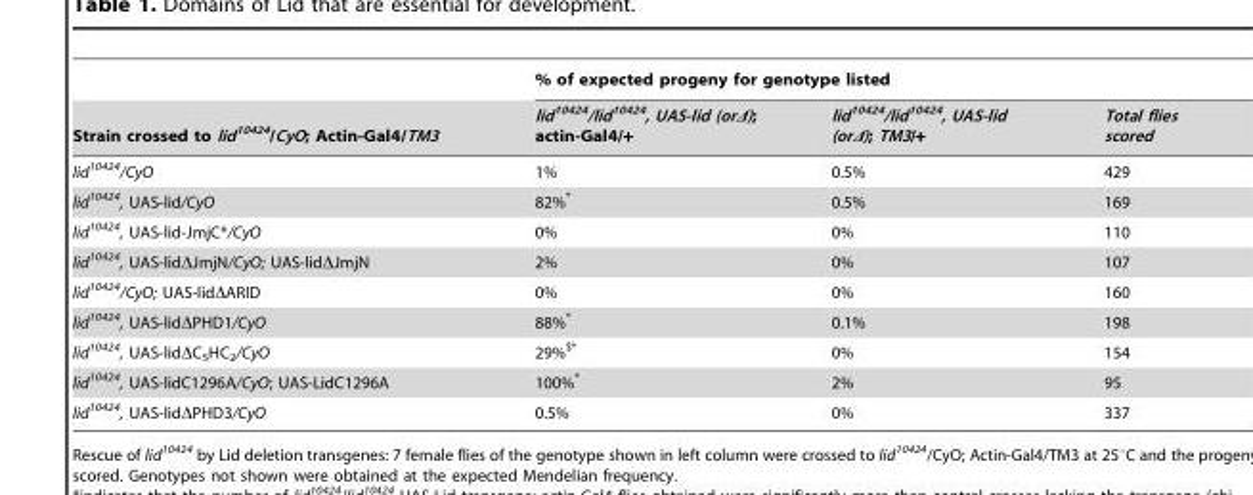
<table><thead><tr><td rowspan="2">Strain crossed to lid<sup>10424</sup>/CyO; Actin-Gal4/TM3</td><td colspan="3">% of expected progeny for genotype listed</td></tr><tr><td>lid<sup>10424</sup>/lid<sup>10424</sup>, UAS-lid (orΔ); actin-Gal4/+</td><td>lid<sup>10424</sup>/lid<sup>10424</sup>, UAS-lid (orΔ); TM3/+</td><td>Total flies scored</td></tr></thead><tbody><tr><td>lid<sup>10424</sup>/CyO</td><td>1%</td><td>0.5%</td><td>429</td></tr><tr><td>lid<sup>10424</sup>, UAS-lid/CyO</td><td>82%*</td><td>0.5%</td><td>169</td></tr><tr><td>lid<sup>10424</sup>, UAS-lid-JmjC*/CyO</td><td>0%</td><td>0%</td><td>110</td></tr><tr><td>lid<sup>10424</sup>, UAS-lidΔJmjN/CyO; UAS-lidΔJmjN</td><td>2%</td><td>0%</td><td>107</td></tr><tr><td>lid<sup>10424</sup>/CyO; UAS-lidΔARID</td><td>0%</td><td>0%</td><td>160</td></tr><tr><td>lid<sup>10424</sup>, UAS-lidΔPHD1/CyO</td><td>88%*</td><td>0.1%</td><td>198</td></tr><tr><td>lid<sup>10424</sup>, UAS-lidΔC<sub>5</sub>HC<sub>2</sub>/CyO</td><td>29%$*</td><td>0%</td><td>154</td></tr><tr><td>lid<sup>10424</sup>, UAS-lidC1296A/CyO; UAS-LidC1296A</td><td>100%*</td><td>2%</td><td>95</td></tr><tr><td>lid<sup>10424</sup>, UAS-lidΔPHD3/CyO</td><td>0.5%</td><td>0%</td><td>337</td></tr></tbody></table>